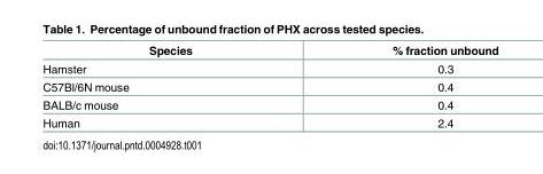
<table><thead><tr><td>Species</td><td>% fraction unbound</td></tr></thead><tbody><tr><td>Hamster</td><td>0.3</td></tr><tr><td>C57Bl/6N mouse</td><td>0.4</td></tr><tr><td>BALB/c mouse</td><td>0.4</td></tr><tr><td>Human</td><td>2.4</td></tr></tbody></table>